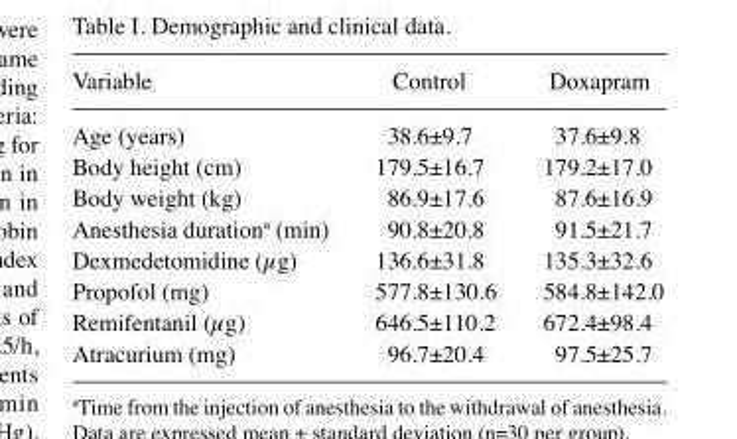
<table><thead><tr><td>Variable</td><td>Control</td><td>Doxapram</td></tr></thead><tbody><tr><td>Age (years)</td><td>38.6±9.7</td><td>37.6±9.8</td></tr><tr><td>Body height (cm)</td><td>179.5±16.7</td><td>179.2±17.0</td></tr><tr><td>Body weight (kg)</td><td>86.9±17.6</td><td>87.6±16.9</td></tr><tr><td>Anesthesia duration<sup>a</sup> (min)</td><td>90.8±20.8</td><td>91.5±21.7</td></tr><tr><td>Dexmedetomidine (µg)</td><td>136.6±31.8</td><td>135.3±32.6</td></tr><tr><td>Propofol (mg)</td><td>577.8±130.6</td><td>584.8±142.0</td></tr><tr><td>Remifentanil (µg)</td><td>646.5±110.2</td><td>672.4±98.4</td></tr><tr><td>Atracurium (mg)</td><td>96.7±20.4</td><td>97.5±25.7</td></tr></tbody></table>